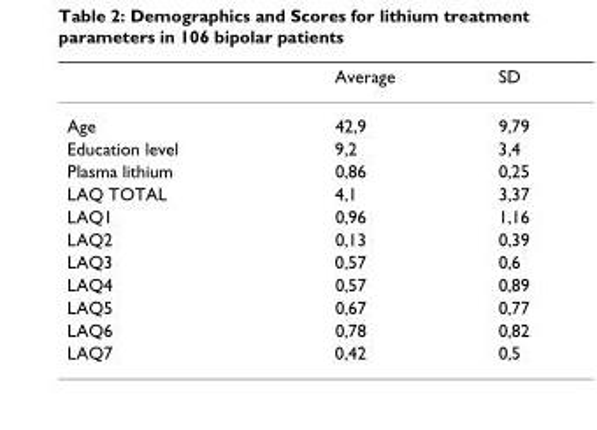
<table><thead><tr><td></td><td>Average</td><td>SD</td></tr></thead><tbody><tr><td>Age</td><td>42,9</td><td>9,79</td></tr><tr><td>Education level</td><td>9,2</td><td>3,4</td></tr><tr><td>Plasma lithium</td><td>0,86</td><td>0,25</td></tr><tr><td>LAQ TOTAL</td><td>4,1</td><td>3,37</td></tr><tr><td>LAQ1</td><td>0,96</td><td>1,16</td></tr><tr><td>LAQ2</td><td>0,13</td><td>0,39</td></tr><tr><td>LAQ3</td><td>0,57</td><td>0,6</td></tr><tr><td>LAQ4</td><td>0,57</td><td>0,89</td></tr><tr><td>LAQ5</td><td>0,67</td><td>0,77</td></tr><tr><td>LAQ6</td><td>0,78</td><td>0,82</td></tr><tr><td>LAQ7</td><td>0,42</td><td>0,5</td></tr></tbody></table>